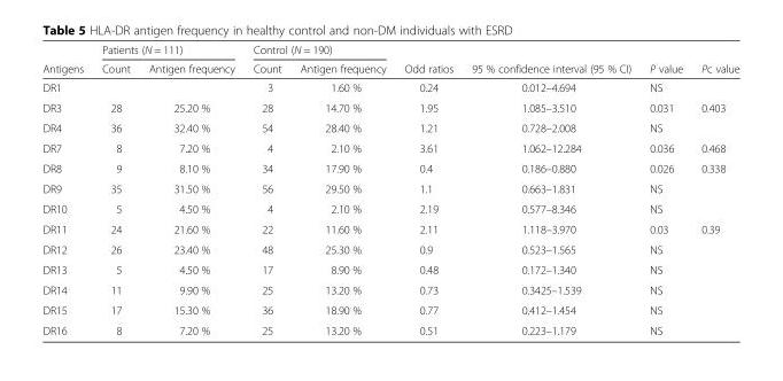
<table><thead><tr><td rowspan="2">Antigens</td><td colspan="2">Patients (N = 111)</td><td colspan="2">Control (N = 190)</td><td rowspan="2">Odd ratios</td><td rowspan="2">95 % confidence interval (95 % CI)</td><td rowspan="2">P value</td><td rowspan="2">Pc value</td></tr><tr><td>Count</td><td>Antigen frequency</td><td>Count</td><td>Antigen frequency</td></tr></thead><tbody><tr><td>DR1</td><td></td><td></td><td>3</td><td>1.60 %</td><td>0.24</td><td>0.012–4.694</td><td>NS</td><td></td></tr><tr><td>DR3</td><td>28</td><td>25.20 %</td><td>28</td><td>14.70 %</td><td>1.95</td><td>1.085–3.510</td><td>0.031</td><td>0.403</td></tr><tr><td>DR4</td><td>36</td><td>32.40 %</td><td>54</td><td>28.40 %</td><td>1.21</td><td>0.728–2.008</td><td>NS</td><td></td></tr><tr><td>DR7</td><td>8</td><td>7.20 %</td><td>4</td><td>2.10 %</td><td>3.61</td><td>1.062–12.284</td><td>0.036</td><td>0.468</td></tr><tr><td>DR8</td><td>9</td><td>8.10 %</td><td>34</td><td>17.90 %</td><td>0.4</td><td>0.186–0.880</td><td>0.026</td><td>0.338</td></tr><tr><td>DR9</td><td>35</td><td>31.50 %</td><td>56</td><td>29.50 %</td><td>1.1</td><td>0.663–1.831</td><td>NS</td><td></td></tr><tr><td>DR10</td><td>5</td><td>4.50 %</td><td>4</td><td>2.10 %</td><td>2.19</td><td>0.577–8.346</td><td>NS</td><td></td></tr><tr><td>DR11</td><td>24</td><td>21.60 %</td><td>22</td><td>11.60 %</td><td>2.11</td><td>1.118–3.970</td><td>0.03</td><td>0.39</td></tr><tr><td>DR12</td><td>26</td><td>23.40 %</td><td>48</td><td>25.30 %</td><td>0.9</td><td>0.523–1.565</td><td>NS</td><td></td></tr><tr><td>DR13</td><td>5</td><td>4.50 %</td><td>17</td><td>8.90 %</td><td>0.48</td><td>0.172–1.340</td><td>NS</td><td></td></tr><tr><td>DR14</td><td>11</td><td>9.90 %</td><td>25</td><td>13.20 %</td><td>0.73</td><td>0.3425–1.539</td><td>NS</td><td></td></tr><tr><td>DR15</td><td>17</td><td>15.30 %</td><td>36</td><td>18.90 %</td><td>0.77</td><td>0.412–1.454</td><td>NS</td><td></td></tr><tr><td>DR16</td><td>8</td><td>7.20 %</td><td>25</td><td>13.20 %</td><td>0.51</td><td>0.223–1.179</td><td>NS</td><td></td></tr></tbody></table>